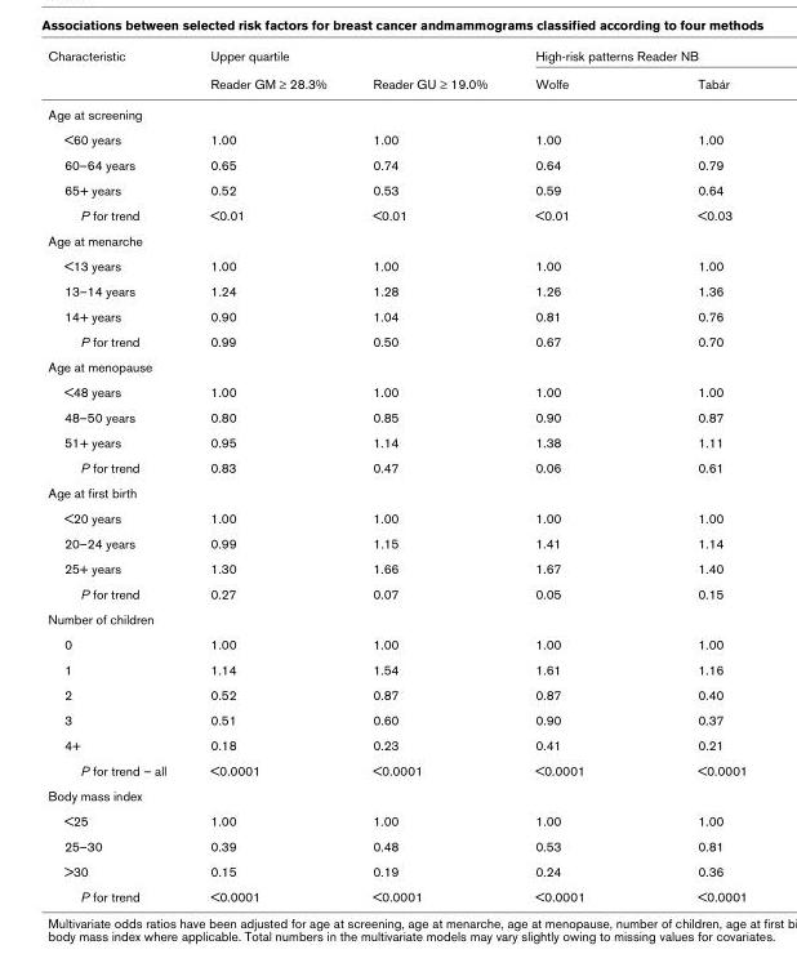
<table><thead><tr><td rowspan="2">Characteristic</td><td colspan="2">Upper quartile</td><td colspan="2">High-risk patterns Reader NB</td></tr><tr><td>Reader GM ≥ 28.3%</td><td>Reader GU ≥ 19.0%</td><td>Wolfe</td><td>Tabár</td></tr></thead><tbody><tr><td colspan="5">Age at screening</td></tr><tr><td>&lt;60 years</td><td>1.00</td><td>1.00</td><td>1.00</td><td>1.00</td></tr><tr><td>60–64 years</td><td>0.65</td><td>0.74</td><td>0.64</td><td>0.79</td></tr><tr><td>65+ years</td><td>0.52</td><td>0.53</td><td>0.59</td><td>0.64</td></tr><tr><td>P for trend</td><td>&lt;0.01</td><td>&lt;0.01</td><td>&lt;0.01</td><td>&lt;0.03</td></tr><tr><td colspan="5">Age at menarche</td></tr><tr><td>&lt;13 years</td><td>1.00</td><td>1.00</td><td>1.00</td><td>1.00</td></tr><tr><td>13–14 years</td><td>1.24</td><td>1.28</td><td>1.26</td><td>1.36</td></tr><tr><td>14+ years</td><td>0.90</td><td>1.04</td><td>0.81</td><td>0.76</td></tr><tr><td>P for trend</td><td>0.99</td><td>0.50</td><td>0.67</td><td>0.70</td></tr><tr><td colspan="5">Age at menopause</td></tr><tr><td>&lt;48 years</td><td>1.00</td><td>1.00</td><td>1.00</td><td>1.00</td></tr><tr><td>48–50 years</td><td>0.80</td><td>0.85</td><td>0.90</td><td>0.87</td></tr><tr><td>51+ years</td><td>0.95</td><td>1.14</td><td>1.38</td><td>1.11</td></tr><tr><td>P for trend</td><td>0.83</td><td>0.47</td><td>0.06</td><td>0.61</td></tr><tr><td colspan="5">Age at first birth</td></tr><tr><td>&lt;20 years</td><td>1.00</td><td>1.00</td><td>1.00</td><td>1.00</td></tr><tr><td>20–24 years</td><td>0.99</td><td>1.15</td><td>1.41</td><td>1.14</td></tr><tr><td>25+ years</td><td>1.30</td><td>1.66</td><td>1.67</td><td>1.40</td></tr><tr><td>P for trend</td><td>0.27</td><td>0.07</td><td>0.05</td><td>0.15</td></tr><tr><td colspan="5">Number of children</td></tr><tr><td>0</td><td>1.00</td><td>1.00</td><td>1.00</td><td>1.00</td></tr><tr><td>1</td><td>1.14</td><td>1.54</td><td>1.61</td><td>1.16</td></tr><tr><td>2</td><td>0.52</td><td>0.87</td><td>0.87</td><td>0.40</td></tr><tr><td>3</td><td>0.51</td><td>0.60</td><td>0.90</td><td>0.37</td></tr><tr><td>4+</td><td>0.18</td><td>0.23</td><td>0.41</td><td>0.21</td></tr><tr><td>P for trend – all</td><td>&lt;0.0001</td><td>&lt;0.0001</td><td>&lt;0.0001</td><td>&lt;0.0001</td></tr><tr><td colspan="5">Body mass index</td></tr><tr><td>&lt;25</td><td>1.00</td><td>1.00</td><td>1.00</td><td>1.00</td></tr><tr><td>25–30</td><td>0.39</td><td>0.48</td><td>0.53</td><td>0.81</td></tr><tr><td>&gt;30</td><td>0.15</td><td>0.19</td><td>0.24</td><td>0.36</td></tr><tr><td>P for trend</td><td>&lt;0.0001</td><td>&lt;0.0001</td><td>&lt;0.0001</td><td>&lt;0.0001</td></tr></tbody></table>